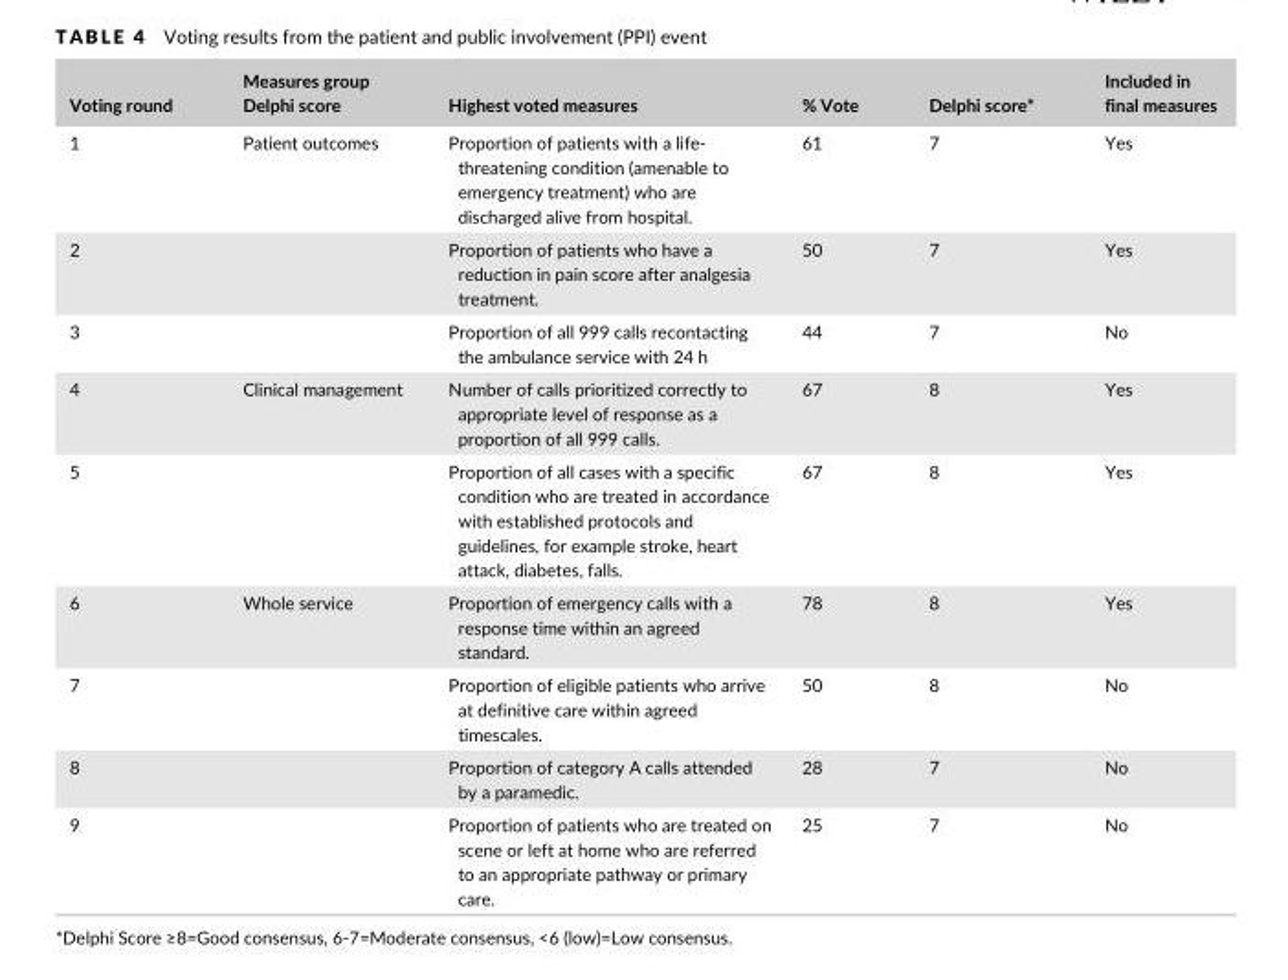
<table><thead><tr><td>Voting round</td><td>Measures group Delphi score</td><td>Highest voted measures</td><td>% Vote</td><td>Delphi score*</td><td>Included in final measures</td></tr></thead><tbody><tr><td>1</td><td>Patient outcomes</td><td>Proportion of patients with a life- threatening condition (amenable to emergency treatment) who are discharged alive from hospital.</td><td>61</td><td>7</td><td>Yes</td></tr><tr><td>2</td><td></td><td>Proportion of patients who have a reduction in pain score after analgesia treatment.</td><td>50</td><td>7</td><td>Yes</td></tr><tr><td>3</td><td></td><td>Proportion of all 999 calls recontacting the ambulance service with 24 h</td><td>44</td><td>7</td><td>No</td></tr><tr><td>4</td><td>Clinical management</td><td>Number of calls prioritized correctly to appropriate level of response as a proportion of all 999 calls.</td><td>67</td><td>8</td><td>Yes</td></tr><tr><td>5</td><td></td><td>Proportion of all cases with a specific condition who are treated in accordance with established protocols and guidelines, for example stroke, heart attack, diabetes, falls.</td><td>67</td><td>8</td><td>Yes</td></tr><tr><td>6</td><td>Whole service</td><td>Proportion of emergency calls with a response time within an agreed standard.</td><td>78</td><td>8</td><td>Yes</td></tr><tr><td>7</td><td></td><td>Proportion of eligible patients who arrive at definitive care within agreed timescales.</td><td>50</td><td>8</td><td>No</td></tr><tr><td>8</td><td></td><td>Proportion of category A calls attended by a paramedic.</td><td>28</td><td>7</td><td>No</td></tr><tr><td>9</td><td></td><td>Proportion of patients who are treated on scene or left at home who are referred to an appropriate pathway or primary care.</td><td>25</td><td>7</td><td>No</td></tr></tbody></table>